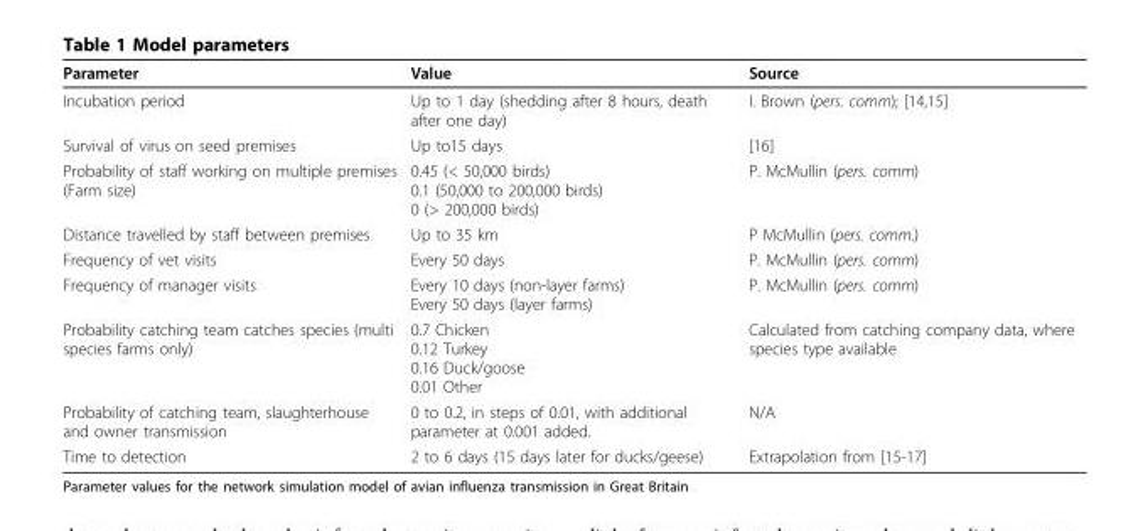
<table><thead><tr><td>Parameter</td><td>Value</td><td>Source</td></tr></thead><tbody><tr><td>Incubation period</td><td>Up to 1 day (shedding after 8 hours, death after one day)</td><td>I. Brown (pers. comm); [14,15]</td></tr><tr><td>Survival of virus on seed premises</td><td>Up to15 days</td><td>[16]</td></tr><tr><td>Probability of staff working on multiple premises (Farm size)</td><td>0.45 (&lt; 50,000 birds) 0.1 (50,000 to 200,000 birds) 0 (&gt; 200,000 birds)</td><td>P. McMullin (pers. comm)</td></tr><tr><td>Distance travelled by staff between premises</td><td>Up to 35 km</td><td>P McMullin (pers. comm.)</td></tr><tr><td>Frequency of vet visits</td><td>Every 50 days</td><td>P. McMullin (pers. comm)</td></tr><tr><td>Frequency of manager visits</td><td>Every 10 days (non-layer farms) Every 50 days (layer farms)</td><td>P. McMullin (pers. comm)</td></tr><tr><td>Probability catching team catches species (multi species farms only)</td><td>0.7 Chicken 0.12 Turkey 0.16 Duck/goose 0.01 Other</td><td>Calculated from catching company data, where species type available</td></tr><tr><td>Probability of catching team, slaughterhouse and owner transmission</td><td>0 to 0.2, in steps of 0.01, with additional parameter at 0.001 added.</td><td>N/A</td></tr><tr><td>Time to detection</td><td>2 to 6 days (15 days later for ducks/geese)</td><td>Extrapolation from [15-17]</td></tr></tbody></table>